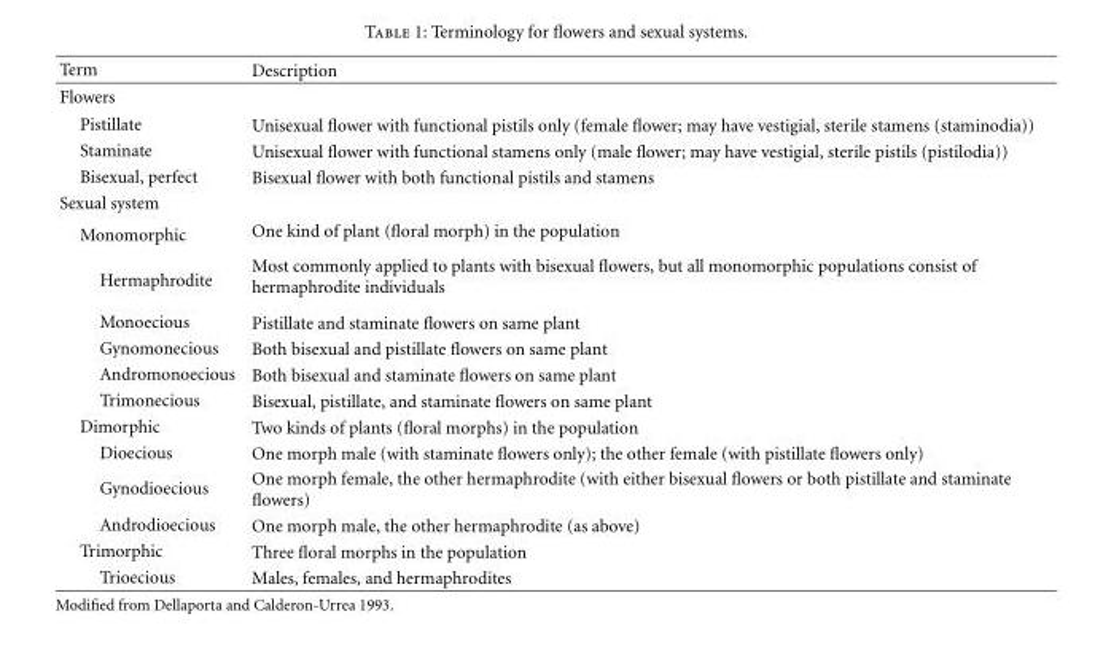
<table><thead><tr><td>Term</td><td>Description</td></tr></thead><tbody><tr><td colspan="2">Flowers</td></tr><tr><td>Pistillate</td><td>Unisexual flower with functional pistils only (female flower; may have vestigial, sterile stamens (staminodia))</td></tr><tr><td>Staminate</td><td>Unisexual flower with functional stamens only (male flower; may have vestigial, sterile pistils (pistilodia))</td></tr><tr><td>Bisexual, perfect</td><td>Bisexual flower with both functional pistils and stamens</td></tr><tr><td colspan="2">Sexual system</td></tr><tr><td>Monomorphic</td><td>One kind of plant (floral morph) in the population</td></tr><tr><td>Hermaphrodite</td><td>Most commonly applied to plants with bisexual flowers, but all monomorphic populations consist of hermaphrodite individuals</td></tr><tr><td>Monoecious</td><td>Pistillate and staminate flowers on same plant</td></tr><tr><td>Gynomonecious</td><td>Both bisexual and pistillate flowers on same plant</td></tr><tr><td>Andromonoecious</td><td>Both bisexual and staminate flowers on same plant</td></tr><tr><td>Trimonecious</td><td>Bisexual, pistillate, and staminate flowers on same plant</td></tr><tr><td>Dimorphic</td><td>Two kinds of plants (floral morphs) in the population</td></tr><tr><td>Dioecious</td><td>One morph male (with staminate flowers only); the other female (with pistillate flowers only)</td></tr><tr><td>Gynodioecious</td><td>One morph female, the other hermaphrodite (with either bisexual flowers or both pistillate and staminate flowers)</td></tr><tr><td>Androdioecious</td><td>One morph male, the other hermaphrodite (as above)</td></tr><tr><td>Trimorphic</td><td>Three floral morphs in the population</td></tr><tr><td>Trioecious</td><td>Males, females, and hermaphrodites</td></tr></tbody></table>